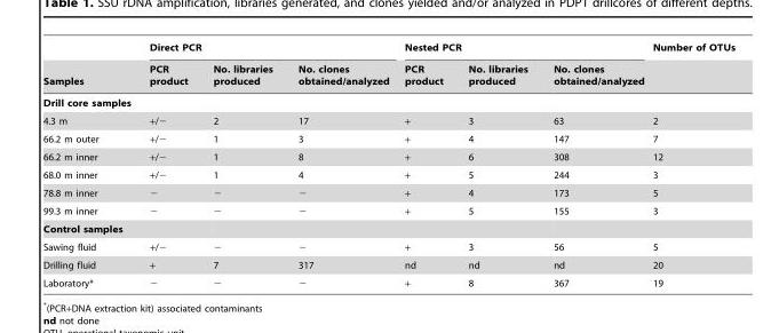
<table><thead><tr><td rowspan="2">Samples</td><td colspan="3">Direct PCR</td><td colspan="3">Nested PCR</td><td rowspan="2">Number of OTUs</td></tr><tr><td>PCR product</td><td>No. libraries produced</td><td>No. clones obtained/analyzed</td><td>PCR product</td><td>No. libraries produced</td><td>No. clones obtained/analyzed</td></tr></thead><tbody><tr><td colspan="8">Drill core samples</td></tr><tr><td>4.3 m</td><td>+/−</td><td>2</td><td>17</td><td>+</td><td>3</td><td>63</td><td>2</td></tr><tr><td>66.2 m outer</td><td>+/−</td><td>1</td><td>3</td><td>+</td><td>4</td><td>147</td><td>7</td></tr><tr><td>66.2 m inner</td><td>+/−</td><td>1</td><td>8</td><td>+</td><td>6</td><td>308</td><td>12</td></tr><tr><td>68.0 m inner</td><td>+/−</td><td>1</td><td>4</td><td>+</td><td>5</td><td>244</td><td>3</td></tr><tr><td>78.8 m inner</td><td>−</td><td>−</td><td>−</td><td>+</td><td>4</td><td>173</td><td>5</td></tr><tr><td>99.3 m inner</td><td>−</td><td>−</td><td>−</td><td>+</td><td>5</td><td>155</td><td>3</td></tr><tr><td colspan="8">Control samples</td></tr><tr><td>Sawing fluid</td><td>+/−</td><td>−</td><td>−</td><td>+</td><td>3</td><td>56</td><td>5</td></tr><tr><td>Drilling fluid</td><td>+</td><td>7</td><td>317</td><td>nd</td><td>nd</td><td>nd</td><td>20</td></tr><tr><td>Laboratory*</td><td>−</td><td>−</td><td>−</td><td>+</td><td>8</td><td>367</td><td>19</td></tr></tbody></table>